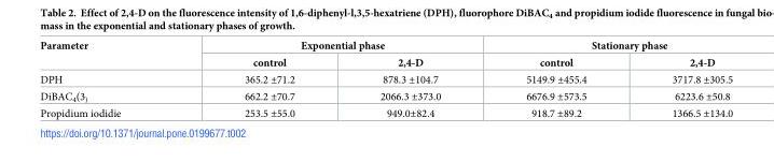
<table><thead><tr><td rowspan="2">Parameter</td><td colspan="2">Exponential phase</td><td colspan="2">Stationary phase</td></tr><tr><td>control</td><td>2,4-D</td><td>control</td><td>2,4-D</td></tr></thead><tbody><tr><td>DPH</td><td>365.2 ±71.2</td><td>878.3 ±104.7</td><td>5149.9 ±455.4</td><td>3717.8 ±305.5</td></tr><tr><td>DiBAC<sub>4</sub>(3<sub>)</sub></td><td>662.2 ±70.7</td><td>2066.3 ±373.0</td><td>6676.9 ±573.5</td><td>6223.6 ±50.8</td></tr><tr><td>Propidium iodidie</td><td>253.5 ±55.0</td><td>949.0±82.4</td><td>918.7 ±89.2</td><td>1366.5 ±134.0</td></tr></tbody></table>